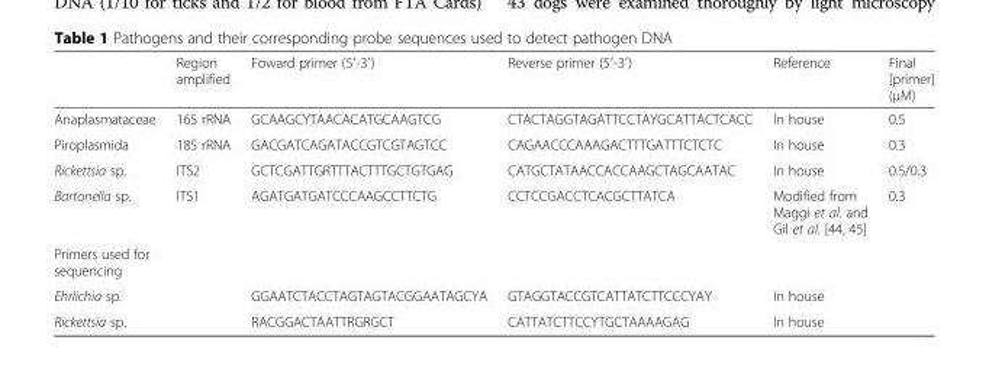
<table><thead><tr><td></td><td>Region amplified</td><td>Foward primer (5′-3′)</td><td>Reverse primer (5′-3′)</td><td>Reference</td><td>Final [primer] (μM)</td></tr></thead><tbody><tr><td>Anaplasmataceae</td><td>16S rRNA</td><td>GCAAGCYTAACACATGCAAGTCG</td><td>CTACTAGGTAGATTCCTAYGCATTACTCACC</td><td>In house</td><td>0.5</td></tr><tr><td>Piroplasmida</td><td>18S rRNA</td><td>GACGATCAGATACCGTCGTAGTCC</td><td>CAGAACCCAAAGACTTTGATTTCTCTC</td><td>In house</td><td>0.3</td></tr><tr><td>Rickettsia sp.</td><td>ITS2</td><td>GCTCGATTGRTTTACTTTGCTGTGAG</td><td>CATGCTATAACCACCAAGCTAGCAATAC</td><td>In house</td><td>0.5/0.3</td></tr><tr><td>Bartonella sp.</td><td>ITS1</td><td>AGATGATGATCCCAAGCCTTCTG</td><td>CCTCCGACCTCACGCTTATCA</td><td>Modified from Maggi et al. and Gil et al. [44, 45]</td><td>0.3</td></tr><tr><td colspan="6">Primers used for sequencing</td></tr><tr><td>Ehrlichia sp.</td><td></td><td>GGAATCTACCTAGTAGTACGGAATAGCYA</td><td>GTAGGTACCGTCATTATCTTCCCYAY</td><td>In house</td><td></td></tr><tr><td>Rickettsia sp.</td><td></td><td>RACGGACTAATTRGRGCT</td><td>CATTATCTTCCYTGCTAAAAGAG</td><td>In house</td><td></td></tr></tbody></table>